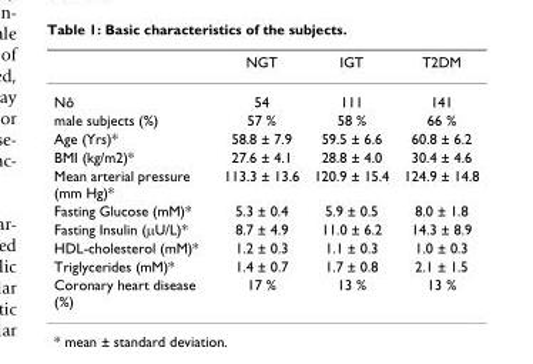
<table><thead><tr><td></td><td>NGT</td><td>IGT</td><td>T2DM</td></tr></thead><tbody><tr><td>Nô</td><td>54</td><td>111</td><td>141</td></tr><tr><td>male subjects (%)</td><td>57 %</td><td>58 %</td><td>66 %</td></tr><tr><td>Age (Yrs)*</td><td>58.8 ± 7.9</td><td>59.5 ± 6.6</td><td>60.8 ± 6.2</td></tr><tr><td>BMI (kg/m2)*</td><td>27.6 ± 4.1</td><td>28.8 ± 4.0</td><td>30.4 ± 4.6</td></tr><tr><td>Mean arterial pressure (mm Hg)*</td><td>113.3 ± 13.6</td><td>120.9 ± 15.4</td><td>124.9 ± 14.8</td></tr><tr><td>Fasting Glucose (mM)*</td><td>5.3 ± 0.4</td><td>5.9 ± 0.5</td><td>8.0 ± 1.8</td></tr><tr><td>Fasting Insulin (µU/L)*</td><td>8.7 ± 4.9</td><td>11.0 ± 6.2</td><td>14.3 ± 8.9</td></tr><tr><td>HDL-cholesterol (mM)*</td><td>1.2 ± 0.3</td><td>1.1 ± 0.3</td><td>1.0 ± 0.3</td></tr><tr><td>Triglycerides (mM)*</td><td>1.4 ± 0.7</td><td>1.7 ± 0.8</td><td>2.1 ± 1.5</td></tr><tr><td>Coronary heart disease (%)</td><td>17 %</td><td>13 %</td><td>13 %</td></tr></tbody></table>